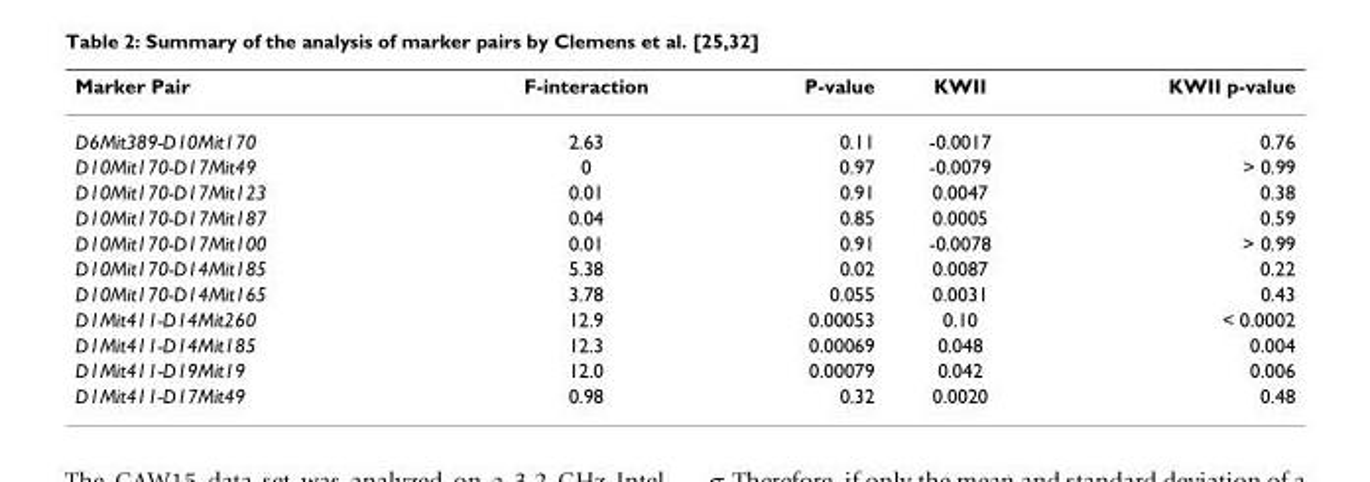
<table><thead><tr><td>Marker Pair</td><td>F-interaction</td><td>P-value</td><td>KWII</td><td>KWII p-value</td></tr></thead><tbody><tr><td>D6Mit389-D10Mit170</td><td>2.63</td><td>0.11</td><td>-0.0017</td><td>0.76</td></tr><tr><td>D10Mit170-D17Mit49</td><td>0</td><td>0.97</td><td>-0.0079</td><td>&gt; 0.99</td></tr><tr><td>D10Mit170-D17Mit123</td><td>0.01</td><td>0.91</td><td>0.0047</td><td>0.38</td></tr><tr><td>D10Mit170-D17Mit187</td><td>0.04</td><td>0.85</td><td>0.0005</td><td>0.59</td></tr><tr><td>D10Mit170-D17Mit100</td><td>0.01</td><td>0.91</td><td>-0.0078</td><td>&gt; 0.99</td></tr><tr><td>D10Mit170-D14Mit185</td><td>5.38</td><td>0.02</td><td>0.0087</td><td>0.22</td></tr><tr><td>D10Mit170-D14Mit165</td><td>3.78</td><td>0.055</td><td>0.0031</td><td>0.43</td></tr><tr><td>D1Mit411-D14Mit260</td><td>12.9</td><td>0.00053</td><td>0.10</td><td>&lt; 0.0002</td></tr><tr><td>D1Mit411-D14Mit185</td><td>12.3</td><td>0.00069</td><td>0.048</td><td>0.004</td></tr><tr><td>D1Mit411-D19Mit19</td><td>12.0</td><td>0.00079</td><td>0.042</td><td>0.006</td></tr><tr><td>D1Mit411-D17Mit49</td><td>0.98</td><td>0.32</td><td>0.0020</td><td>0.48</td></tr></tbody></table>